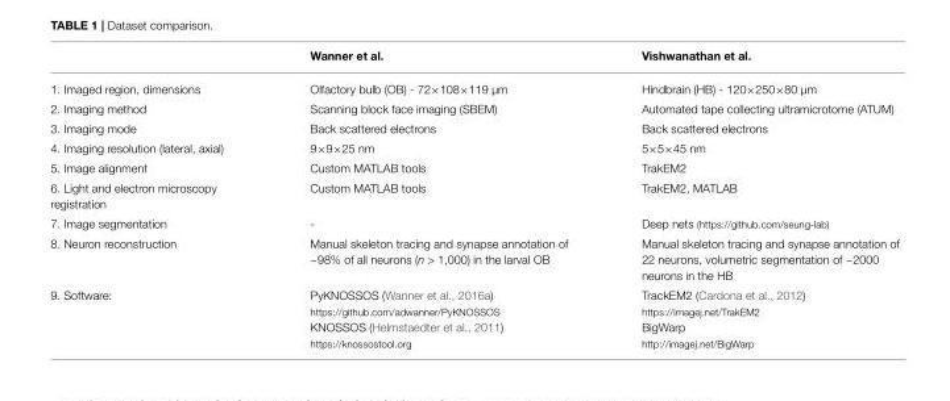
<table><thead><tr><td></td><td>Wanner et al.</td><td>Vishwanathan et al.</td></tr></thead><tbody><tr><td>1. Imaged region, dimensions</td><td>Olfactory bulb (OB) - 72×108×119 µm</td><td>Hindbrain (HB) - 120×250×80 µm</td></tr><tr><td>2. Imaging method</td><td>Scanning block face imaging (SBEM)</td><td>Automated tape collecting ultramicrotome (ATUM)</td></tr><tr><td>3. Imaging mode</td><td>Back scattered electrons</td><td>Back scattered electrons</td></tr><tr><td>4. Imaging resolution (lateral, axial)</td><td>9×9×25 nm</td><td>5×5×45 nm</td></tr><tr><td>5. Image alignment</td><td>Custom MATLAB tools</td><td>TrakEM2</td></tr><tr><td>6. Light and electron microscopy registration</td><td>Custom MATLAB tools</td><td>TrakEM2, MATLAB</td></tr><tr><td>7. Image segmentation</td><td>-</td><td>Deep nets (https://github.com/seung-lab)</td></tr><tr><td>8. Neuron reconstruction</td><td>Manual skeleton tracing and synapse annotation of ~98% of all neurons (n &gt; 1,000) in the larval OB</td><td>Manual skeleton tracing and synapse annotation of 22 neurons, volumetric segmentation of ~2000 neurons in the HB</td></tr><tr><td>9. Software:</td><td>PyKNOSSOS (Wanner et al., 2016a) https://github.com/adwanner/PyKNOSSOS KNOSSOS (Helmstaedter et al., 2011) https://knossostool.org</td><td>TrackEM2 (Cardona et al., 2012) https://imagej.net/TrakEM2 BigWarp http://imagej.net/BigWarp</td></tr></tbody></table>